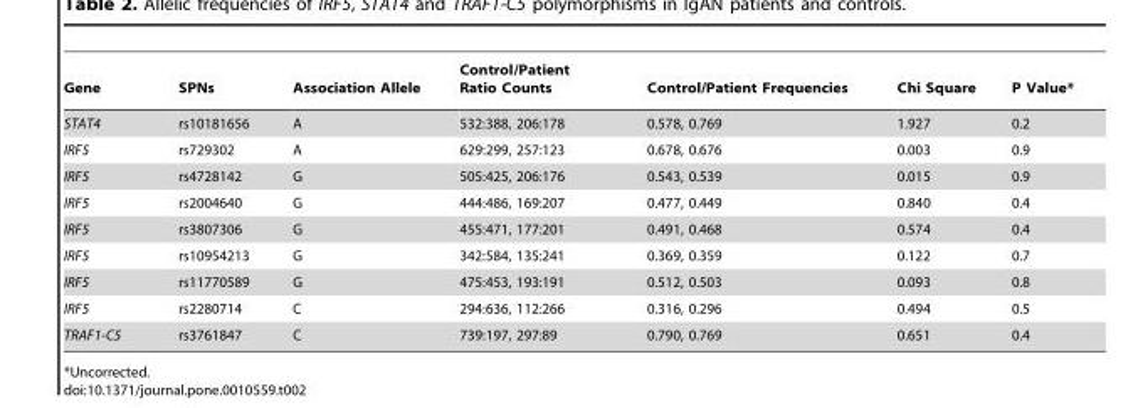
<table><thead><tr><td>Gene</td><td>SPNs</td><td>Association Allele</td><td>Control/Patient Ratio Counts</td><td>Control/Patient Frequencies</td><td>Chi Square</td><td>P Value*</td></tr></thead><tbody><tr><td>STAT4</td><td>rs10181656</td><td>A</td><td>532:388, 206:178</td><td>0.578, 0.769</td><td>1.927</td><td>0.2</td></tr><tr><td>IRF5</td><td>rs729302</td><td>A</td><td>629:299, 257:123</td><td>0.678, 0.676</td><td>0.003</td><td>0.9</td></tr><tr><td>IRF5</td><td>rs4728142</td><td>G</td><td>505:425, 206:176</td><td>0.543, 0.539</td><td>0.015</td><td>0.9</td></tr><tr><td>IRF5</td><td>rs2004640</td><td>G</td><td>444:486, 169:207</td><td>0.477, 0.449</td><td>0.840</td><td>0.4</td></tr><tr><td>IRF5</td><td>rs3807306</td><td>G</td><td>455:471, 177:201</td><td>0.491, 0.468</td><td>0.574</td><td>0.4</td></tr><tr><td>IRF5</td><td>rs10954213</td><td>G</td><td>342:584, 135:241</td><td>0.369, 0.359</td><td>0.122</td><td>0.7</td></tr><tr><td>IRF5</td><td>rs11770589</td><td>G</td><td>475:453, 193:191</td><td>0.512, 0.503</td><td>0.093</td><td>0.8</td></tr><tr><td>IRF5</td><td>rs2280714</td><td>C</td><td>294:636, 112:266</td><td>0.316, 0.296</td><td>0.494</td><td>0.5</td></tr><tr><td>TRAF1-C5</td><td>rs3761847</td><td>C</td><td>739:197, 297:89</td><td>0.790, 0.769</td><td>0.651</td><td>0.4</td></tr></tbody></table>